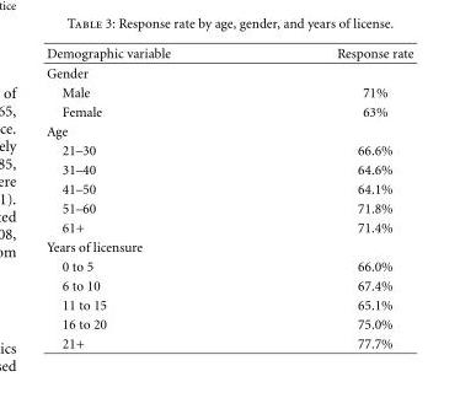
<table><thead><tr><td>Demographic variable</td><td>Response rate</td></tr></thead><tbody><tr><td colspan="2">Gender</td></tr><tr><td>Male</td><td>71%</td></tr><tr><td>Female</td><td>63%</td></tr><tr><td colspan="2">Age</td></tr><tr><td>21–30</td><td>66.6%</td></tr><tr><td>31–40</td><td>64.6%</td></tr><tr><td>41–50</td><td>64.1%</td></tr><tr><td>51–60</td><td>71.8%</td></tr><tr><td>61+</td><td>71.4%</td></tr><tr><td colspan="2">Years of licensure</td></tr><tr><td>0 to 5</td><td>66.0%</td></tr><tr><td>6 to 10</td><td>67.4%</td></tr><tr><td>11 to 15</td><td>65.1%</td></tr><tr><td>16 to 20</td><td>75.0%</td></tr><tr><td>21+</td><td>77.7%</td></tr></tbody></table>